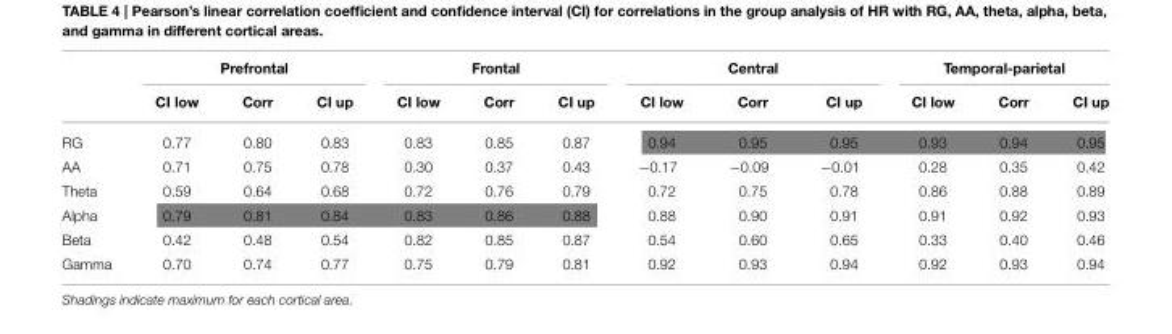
<table><thead><tr><td rowspan="2"></td><td colspan="3">Prefrontal</td><td colspan="3">Frontal</td><td colspan="3">Central</td><td colspan="3">Temporal-parietal</td></tr><tr><td>CI low</td><td>Corr</td><td>CI up</td><td>CI low</td><td>Corr</td><td>CI up</td><td>CI low</td><td>Corr</td><td>CI up</td><td>CI low</td><td>Corr</td><td>CI up</td></tr></thead><tbody><tr><td>RG</td><td>0.77</td><td>0.80</td><td>0.83</td><td>0.83</td><td>0.85</td><td>0.87</td><td>0.94</td><td>0.95</td><td>0.95</td><td>0.93</td><td>0.94</td><td>0.95</td></tr><tr><td>AA</td><td>0.71</td><td>0.75</td><td>0.78</td><td>0.30</td><td>0.37</td><td>0.43</td><td>−0.17</td><td>−0.09</td><td>−0.01</td><td>0.28</td><td>0.35</td><td>0.42</td></tr><tr><td>Theta</td><td>0.59</td><td>0.64</td><td>0.68</td><td>0.72</td><td>0.76</td><td>0.79</td><td>0.72</td><td>0.75</td><td>0.78</td><td>0.86</td><td>0.88</td><td>0.89</td></tr><tr><td>Alpha</td><td>0.79</td><td>0.81</td><td>0.84</td><td>0.83</td><td>0.86</td><td>0.88</td><td>0.88</td><td>0.90</td><td>0.91</td><td>0.91</td><td>0.92</td><td>0.93</td></tr><tr><td>Beta</td><td>0.42</td><td>0.48</td><td>0.54</td><td>0.82</td><td>0.85</td><td>0.87</td><td>0.54</td><td>0.60</td><td>0.65</td><td>0.33</td><td>0.40</td><td>0.46</td></tr><tr><td>Gamma</td><td>0.70</td><td>0.74</td><td>0.77</td><td>0.75</td><td>0.79</td><td>0.81</td><td>0.92</td><td>0.93</td><td>0.94</td><td>0.92</td><td>0.93</td><td>0.94</td></tr></tbody></table>